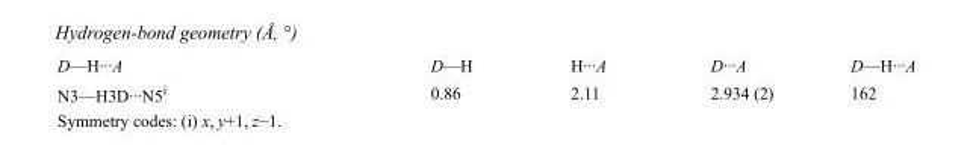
<table><tbody><tr><td>D—H···A</td><td>D—H</td><td>H···A</td><td>D···A</td><td>D—H···A</td></tr><tr><td>N3—H3D···N5<sup>i</sup></td><td>0.86</td><td>2.11</td><td>2.934 (2)</td><td>162</td></tr></tbody></table>